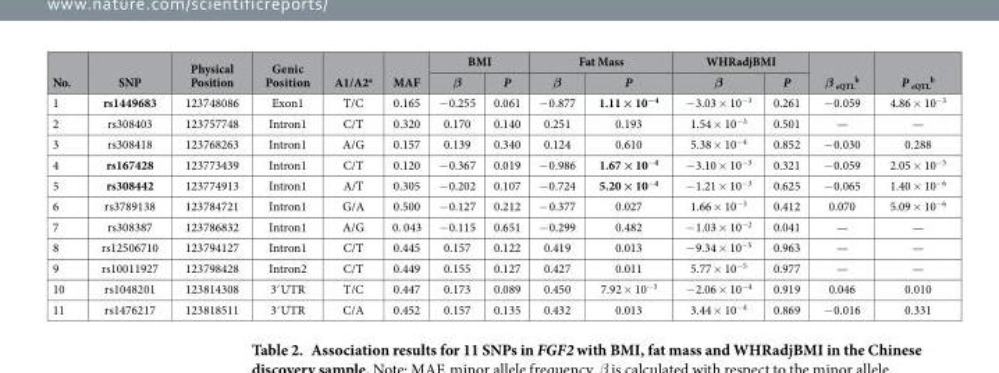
<table><thead><tr><td rowspan="2">No.</td><td rowspan="2">SNP</td><td rowspan="2">Physical Position</td><td rowspan="2">Genic Position</td><td rowspan="2">A1/A2<sup>a</sup></td><td rowspan="2">MAF</td><td colspan="2">BMI</td><td colspan="2">Fat Mass</td><td colspan="2">WHRadjBMI</td><td rowspan="2">β <sub>eQTL</sub> <sup>b</sup></td><td rowspan="2">P <sub>eQTL</sub> <sup>b</sup></td></tr><tr><td>β</td><td>P</td><td>β</td><td>P</td><td>β</td><td>P</td></tr></thead><tbody><tr><td>1</td><td>rs1449683</td><td>123748086</td><td>Exon1</td><td>T/C</td><td>0.165</td><td>− 0.255</td><td>0.061</td><td>− 0.877</td><td>1.11 × 10<sup>−4</sup></td><td>− 3.03 × 10<sup>−3</sup></td><td>0.261</td><td>− 0.059</td><td>4.86 × 10<sup>−3</sup></td></tr><tr><td>2</td><td>rs308403</td><td>123757748</td><td>Intron1</td><td>C/T</td><td>0.320</td><td>0.170</td><td>0.140</td><td>0.251</td><td>0.193</td><td>1.54 × 10<sup>−3</sup></td><td>0.501</td><td>—</td><td>—</td></tr><tr><td>3</td><td>rs308418</td><td>123768263</td><td>Intron1</td><td>A/G</td><td>0.157</td><td>0.139</td><td>0.340</td><td>0.124</td><td>0.610</td><td>5.38 × 10<sup>−4</sup></td><td>0.852</td><td>− 0.030</td><td>0.288</td></tr><tr><td>4</td><td>rs167428</td><td>123773439</td><td>Intron1</td><td>C/T</td><td>0.120</td><td>− 0.367</td><td>0.019</td><td>− 0.986</td><td>1.67 × 10<sup>−4</sup></td><td>− 3.10 × 10<sup>−3</sup></td><td>0.321</td><td>− 0.059</td><td>2.05 × 10<sup>−5</sup></td></tr><tr><td>5</td><td>rs308442</td><td>123774913</td><td>Intron1</td><td>A/T</td><td>0.305</td><td>− 0.202</td><td>0.107</td><td>− 0.724</td><td>5.20 × 10<sup>−4</sup></td><td>− 1.21 × 10<sup>−3</sup></td><td>0.625</td><td>− 0.065</td><td>1.40 × 10<sup>−6</sup></td></tr><tr><td>6</td><td>rs3789138</td><td>123784721</td><td>Intron1</td><td>G/A</td><td>0.500</td><td>− 0.127</td><td>0.212</td><td>− 0.377</td><td>0.027</td><td>1.66 × 10<sup>−3</sup></td><td>0.412</td><td>0.070</td><td>5.09 × 10<sup>−6</sup></td></tr><tr><td>7</td><td>rs308387</td><td>123786832</td><td>Intron1</td><td>A/G</td><td>0. 043</td><td>− 0.115</td><td>0.651</td><td>− 0.299</td><td>0.482</td><td>− 1.03 × 10<sup>−2</sup></td><td>0.041</td><td>—</td><td>—</td></tr><tr><td>8</td><td>rs12506710</td><td>123794127</td><td>Intron1</td><td>C/T</td><td>0.445</td><td>0.157</td><td>0.122</td><td>0.419</td><td>0.013</td><td>− 9.34 × 10<sup>−5</sup></td><td>0.963</td><td>—</td><td>—</td></tr><tr><td>9</td><td>rs10011927</td><td>123798428</td><td>Intron2</td><td>C/T</td><td>0.449</td><td>0.155</td><td>0.127</td><td>0.427</td><td>0.011</td><td>5.77 × 10<sup>−5</sup></td><td>0.977</td><td>—</td><td>—</td></tr><tr><td>10</td><td>rs1048201</td><td>123814308</td><td>3′ UTR</td><td>T/C</td><td>0.447</td><td>0.173</td><td>0.089</td><td>0.450</td><td>7.92 × 10<sup>−3</sup></td><td>− 2.06 × 10<sup>−4</sup></td><td>0.919</td><td>0.046</td><td>0.010</td></tr><tr><td>11</td><td>rs1476217</td><td>123818511</td><td>3′ UTR</td><td>C/A</td><td>0.452</td><td>0.157</td><td>0.135</td><td>0.432</td><td>0.013</td><td>3.44 × 10<sup>−4</sup></td><td>0.869</td><td>− 0.016</td><td>0.331</td></tr></tbody></table>